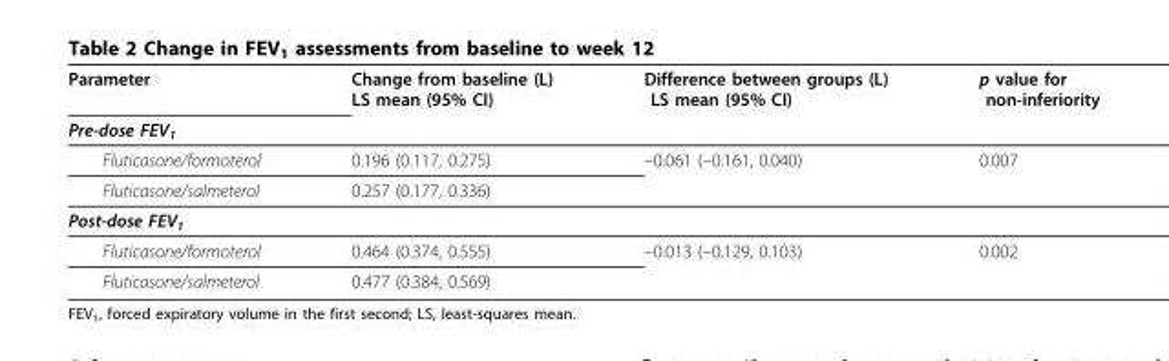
<table><thead><tr><td rowspan="2">Parameter Pre-dose FEV<sub>1</sub></td><td rowspan="2">Change from baseline (L) LS mean (95% CI)</td><td rowspan="2">Difference between groups (L) LS mean (95% CI)</td><td rowspan="2">p value for non-inferiority</td></tr><tr></tr></thead><tbody><tr><td>Fluticasone/formoterol</td><td>0.196 (0.117, 0.275)</td><td>–0.061 (–0.161, 0.040)</td><td>0.007</td></tr><tr><td>Fluticasone/salmeterol</td><td>0.257 (0.177, 0.336)</td><td></td><td></td></tr><tr><td colspan="4">Post-dose FEV<sub>1</sub></td></tr><tr><td>Fluticasone/formoterol</td><td>0.464 (0.374, 0.555)</td><td>–0.013 (–0.129, 0.103)</td><td>0.002</td></tr><tr><td>Fluticasone/salmeterol</td><td>0.477 (0.384, 0.569)</td><td></td><td></td></tr></tbody></table>